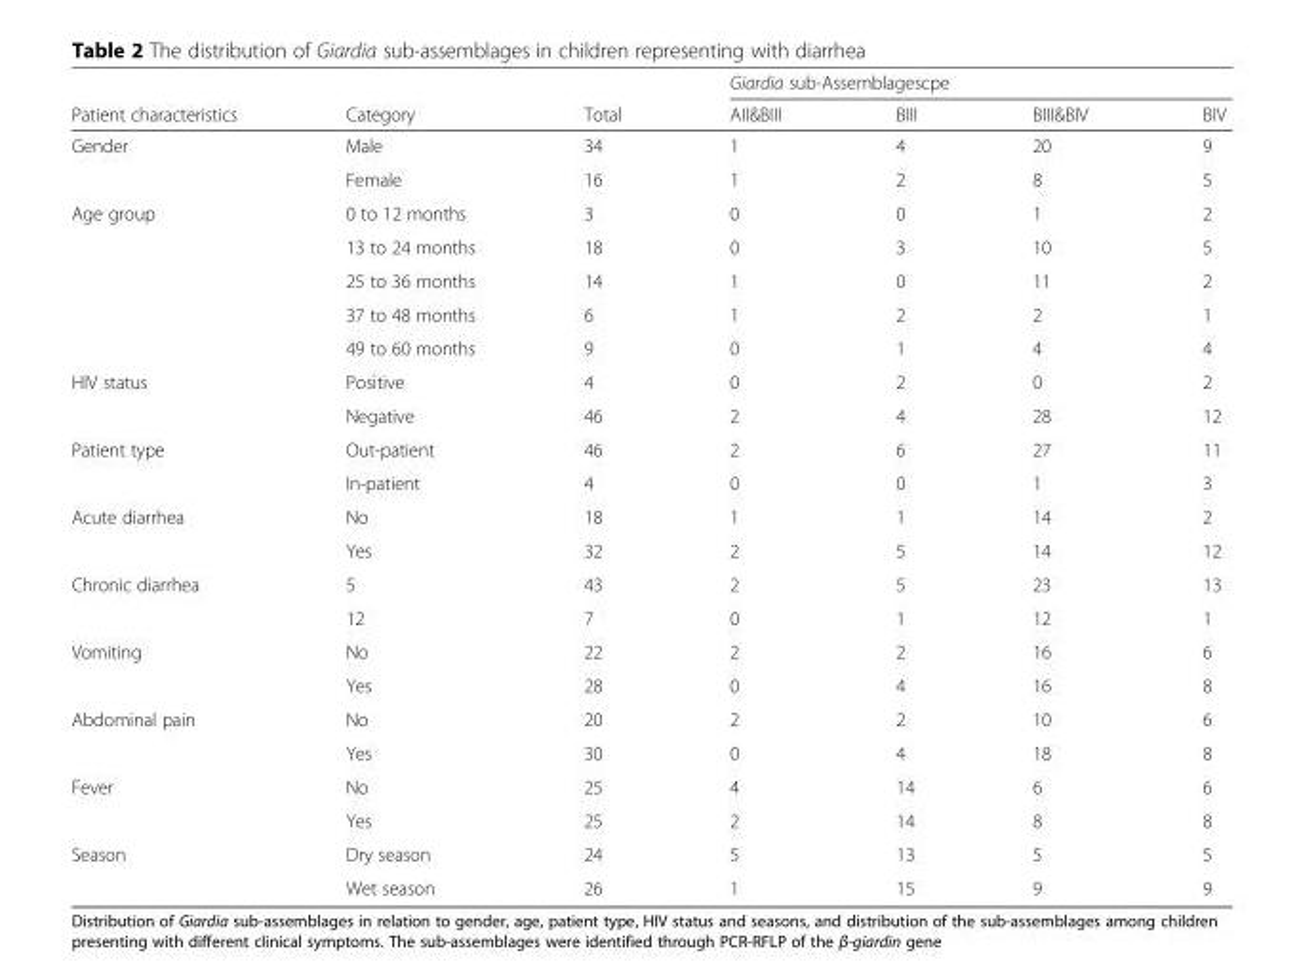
<table><thead><tr><td rowspan="2">Patient characteristics</td><td rowspan="2">Category</td><td rowspan="2">Total</td><td colspan="4">Giardia sub-Assemblagescpe</td></tr><tr><td>AII&amp;BIII</td><td>BIII</td><td>BIII&amp;BIV</td><td>BIV</td></tr></thead><tbody><tr><td rowspan="2">Gender</td><td>Male</td><td>34</td><td>1</td><td>4</td><td>20</td><td>9</td></tr><tr><td>Female</td><td>16</td><td>1</td><td>2</td><td>8</td><td>5</td></tr><tr><td rowspan="5">Age group</td><td>0 to 12 months</td><td>3</td><td>0</td><td>0</td><td>1</td><td>2</td></tr><tr><td>13 to 24 months</td><td>18</td><td>0</td><td>3</td><td>10</td><td>5</td></tr><tr><td>25 to 36 months</td><td>14</td><td>1</td><td>0</td><td>11</td><td>2</td></tr><tr><td>37 to 48 months</td><td>6</td><td>1</td><td>2</td><td>2</td><td>1</td></tr><tr><td>49 to 60 months</td><td>9</td><td>0</td><td>1</td><td>4</td><td>4</td></tr><tr><td rowspan="2">HIV status</td><td>Positive</td><td>4</td><td>0</td><td>2</td><td>0</td><td>2</td></tr><tr><td>Negative</td><td>46</td><td>2</td><td>4</td><td>28</td><td>12</td></tr><tr><td rowspan="2">Patient type</td><td>Out-patient</td><td>46</td><td>2</td><td>6</td><td>27</td><td>11</td></tr><tr><td>In-patient</td><td>4</td><td>0</td><td>0</td><td>1</td><td>3</td></tr><tr><td rowspan="2">Acute diarrhea</td><td>No</td><td>18</td><td>1</td><td>1</td><td>14</td><td>2</td></tr><tr><td>Yes</td><td>32</td><td>2</td><td>5</td><td>14</td><td>12</td></tr><tr><td rowspan="2">Chronic diarrhea</td><td>5</td><td>43</td><td>2</td><td>5</td><td>23</td><td>13</td></tr><tr><td>12</td><td>7</td><td>0</td><td>1</td><td>12</td><td>1</td></tr><tr><td rowspan="2">Vomiting</td><td>No</td><td>22</td><td>2</td><td>2</td><td>16</td><td>6</td></tr><tr><td>Yes</td><td>28</td><td>0</td><td>4</td><td>16</td><td>8</td></tr><tr><td rowspan="2">Abdominal pain</td><td>No</td><td>20</td><td>2</td><td>2</td><td>10</td><td>6</td></tr><tr><td>Yes</td><td>30</td><td>0</td><td>4</td><td>18</td><td>8</td></tr><tr><td rowspan="2">Fever</td><td>No</td><td>25</td><td>4</td><td>14</td><td>6</td><td>6</td></tr><tr><td>Yes</td><td>25</td><td>2</td><td>14</td><td>8</td><td>8</td></tr><tr><td rowspan="2">Season</td><td>Dry season</td><td>24</td><td>5</td><td>13</td><td>5</td><td>5</td></tr><tr><td>Wet season</td><td>26</td><td>1</td><td>15</td><td>9</td><td>9</td></tr></tbody></table>